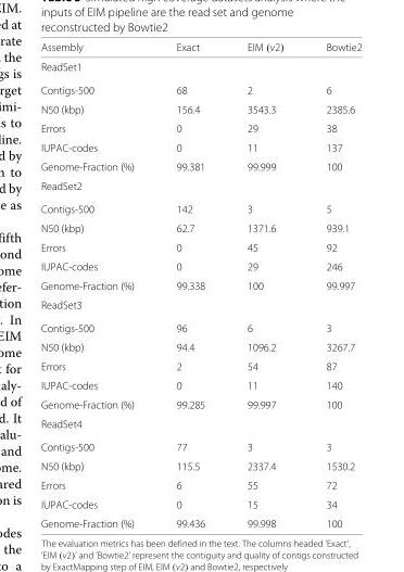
<table><thead><tr><td>Assembly</td><td>Exact</td><td>EIM (v2)</td><td>Bowtie2</td></tr></thead><tbody><tr><td colspan="4">ReadSet1</td></tr><tr><td>Contigs-500</td><td>68</td><td>2</td><td>6</td></tr><tr><td>N50 (kbp)</td><td>156.4</td><td>3543.3</td><td>2385.6</td></tr><tr><td>Errors</td><td>0</td><td>29</td><td>38</td></tr><tr><td>IUPAC-codes</td><td>0</td><td>11</td><td>137</td></tr><tr><td>Genome-Fraction (%)</td><td>99.381</td><td>99.999</td><td>100</td></tr><tr><td colspan="4">ReadSet2</td></tr><tr><td>Contigs-500</td><td>142</td><td>3</td><td>5</td></tr><tr><td>N50 (kbp)</td><td>62.7</td><td>1371.6</td><td>939.1</td></tr><tr><td>Errors</td><td>0</td><td>45</td><td>92</td></tr><tr><td>IUPAC-codes</td><td>0</td><td>29</td><td>246</td></tr><tr><td>Genome-Fraction (%)</td><td>99.338</td><td>100</td><td>99.997</td></tr><tr><td colspan="4">ReadSet3</td></tr><tr><td>Contigs-500</td><td>96</td><td>6</td><td>3</td></tr><tr><td>N50 (kbp)</td><td>94.4</td><td>1096.2</td><td>3267.7</td></tr><tr><td>Errors</td><td>2</td><td>54</td><td>87</td></tr><tr><td>IUPAC-codes</td><td>0</td><td>11</td><td>140</td></tr><tr><td>Genome-Fraction (%)</td><td>99.285</td><td>99.997</td><td>100</td></tr><tr><td colspan="4">ReadSet4</td></tr><tr><td>Contigs-500</td><td>77</td><td>3</td><td>3</td></tr><tr><td>N50 (kbp)</td><td>115.5</td><td>2337.4</td><td>1530.2</td></tr><tr><td>Errors</td><td>6</td><td>55</td><td>72</td></tr><tr><td>IUPAC-codes</td><td>0</td><td>15</td><td>34</td></tr><tr><td>Genome-Fraction (%)</td><td>99.436</td><td>99.998</td><td>100</td></tr></tbody></table>